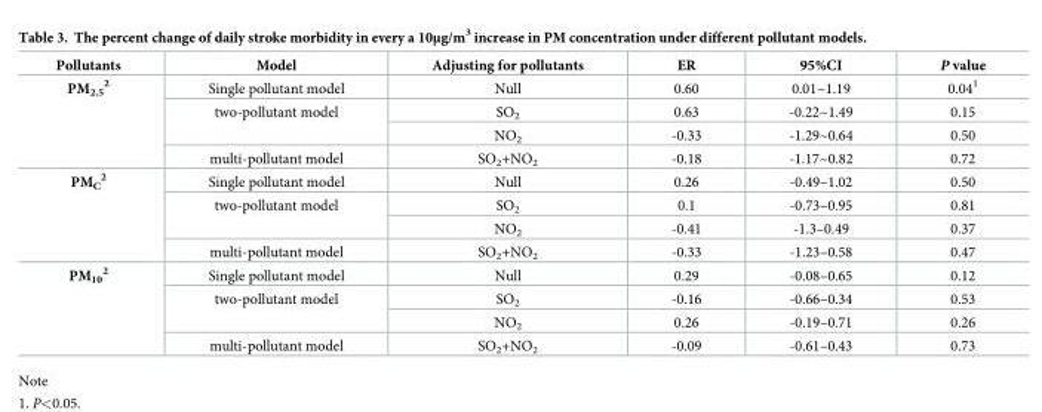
<table><thead><tr><td>Pollutants</td><td>Model</td><td>Adjusting for pollutants</td><td>ER</td><td>95%CI</td><td>P value</td></tr></thead><tbody><tr><td rowspan="4">PM<sub>2.5</sub> <sup>2</sup></td><td>Single pollutant model</td><td>Null</td><td>0.60</td><td>0.01~1.19</td><td>0.04<sup>1</sup></td></tr><tr><td rowspan="2">two-pollutant model</td><td>SO<sub>2</sub></td><td>0.63</td><td>-0.22~1.49</td><td>0.15</td></tr><tr><td>NO<sub>2</sub></td><td>-0.33</td><td>-1.29~0.64</td><td>0.50</td></tr><tr><td>multi-pollutant model</td><td>SO<sub>2</sub>+NO<sub>2</sub></td><td>-0.18</td><td>-1.17~0.82</td><td>0.72</td></tr><tr><td rowspan="4">PM<sub>C</sub> <sup>2</sup></td><td>Single pollutant model</td><td>Null</td><td>0.26</td><td>-0.49–1.02</td><td>0.50</td></tr><tr><td rowspan="2">two-pollutant model</td><td>SO<sub>2</sub></td><td>0.1</td><td>-0.73–0.95</td><td>0.81</td></tr><tr><td>NO<sub>2</sub></td><td>-0.41</td><td>-1.3–0.49</td><td>0.37</td></tr><tr><td>multi-pollutant model</td><td>SO<sub>2</sub>+NO<sub>2</sub></td><td>-0.33</td><td>-1.23–0.58</td><td>0.47</td></tr><tr><td rowspan="4">PM<sub>10</sub> <sup>2</sup></td><td>Single pollutant model</td><td>Null</td><td>0.29</td><td>-0.08–0.65</td><td>0.12</td></tr><tr><td rowspan="2">two-pollutant model</td><td>SO<sub>2</sub></td><td>-0.16</td><td>-0.66–0.34</td><td>0.53</td></tr><tr><td>NO<sub>2</sub></td><td>0.26</td><td>-0.19–0.71</td><td>0.26</td></tr><tr><td>multi-pollutant model</td><td>SO<sub>2</sub>+NO<sub>2</sub></td><td>-0.09</td><td>-0.61–0.43</td><td>0.73</td></tr></tbody></table>